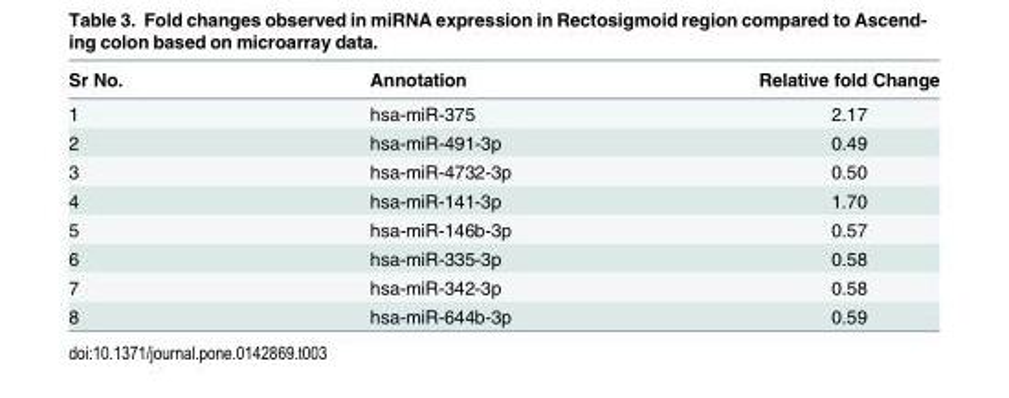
<table><thead><tr><td>Sr No.</td><td>Annotation</td><td>Relative fold Change</td></tr></thead><tbody><tr><td>1</td><td>hsa-miR-375</td><td>2.17</td></tr><tr><td>2</td><td>hsa-miR-491-3p</td><td>0.49</td></tr><tr><td>3</td><td>hsa-miR-4732-3p</td><td>0.50</td></tr><tr><td>4</td><td>hsa-miR-141-3p</td><td>1.70</td></tr><tr><td>5</td><td>hsa-miR-146b-3p</td><td>0.57</td></tr><tr><td>6</td><td>hsa-miR-335-3p</td><td>0.58</td></tr><tr><td>7</td><td>hsa-miR-342-3p</td><td>0.58</td></tr><tr><td>8</td><td>hsa-miR-644b-3p</td><td>0.59</td></tr></tbody></table>